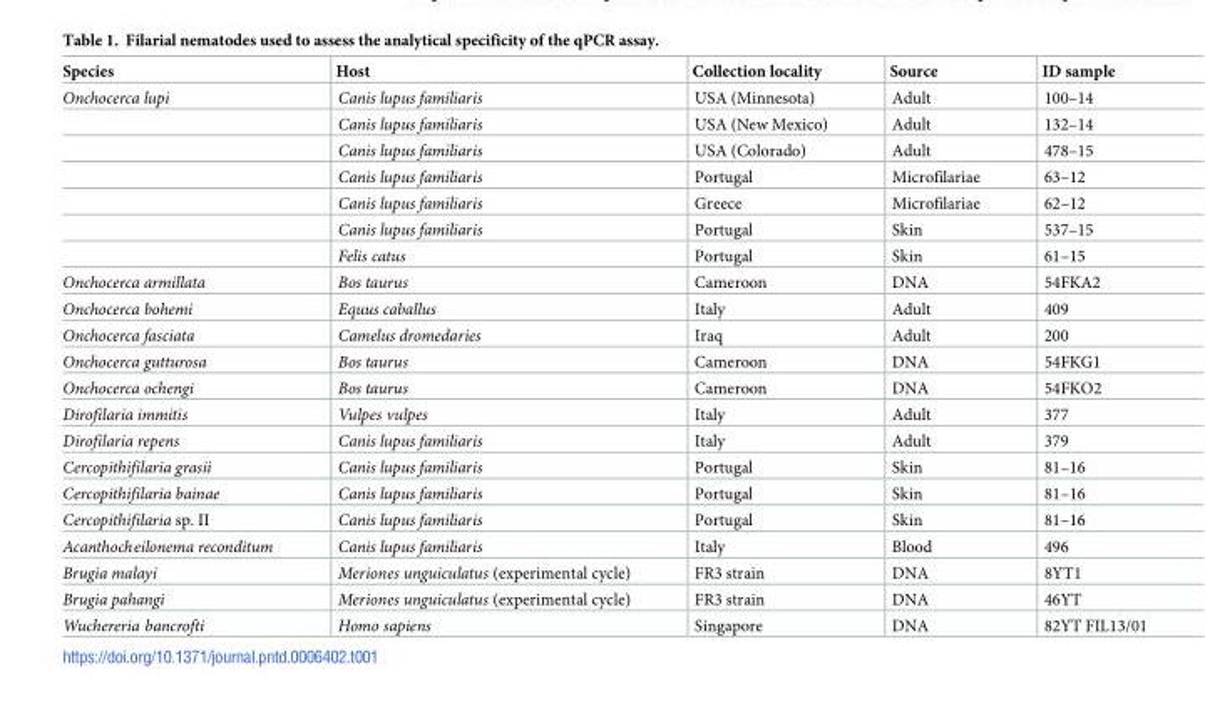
<table><thead><tr><td>Species</td><td>Host</td><td>Collection locality</td><td>Source</td><td>ID sample</td></tr></thead><tbody><tr><td rowspan="7">Onchocerca lupi</td><td>Canis lupus familiaris</td><td>USA (Minnesota)</td><td>Adult</td><td>100–14</td></tr><tr><td>Canis lupus familiaris</td><td>USA (New Mexico)</td><td>Adult</td><td>132–14</td></tr><tr><td>Canis lupus familiaris</td><td>USA (Colorado)</td><td>Adult</td><td>478–15</td></tr><tr><td>Canis lupus familiaris</td><td>Portugal</td><td>Microfilariae</td><td>63–12</td></tr><tr><td>Canis lupus familiaris</td><td>Greece</td><td>Microfilariae</td><td>62–12</td></tr><tr><td>Canis lupus familiaris</td><td>Portugal</td><td>Skin</td><td>537–15</td></tr><tr><td>Felis catus</td><td>Portugal</td><td>Skin</td><td>61–15</td></tr><tr><td>Onchocerca armillata</td><td>Bos taurus</td><td>Cameroon</td><td>DNA</td><td>54FKA2</td></tr><tr><td>Onchocerca bohemi</td><td>Equus caballus</td><td>Italy</td><td>Adult</td><td>409</td></tr><tr><td>Onchocerca fasciata</td><td>Camelus dromedaries</td><td>Iraq</td><td>Adult</td><td>200</td></tr><tr><td>Onchocerca gutturosa</td><td>Bos taurus</td><td>Cameroon</td><td>DNA</td><td>54FKG1</td></tr><tr><td>Onchocerca ochengi</td><td>Bos taurus</td><td>Cameroon</td><td>DNA</td><td>54FKO2</td></tr><tr><td>Dirofilaria immitis</td><td>Vulpes vulpes</td><td>Italy</td><td>Adult</td><td>377</td></tr><tr><td>Dirofilaria repens</td><td>Canis lupus familiaris</td><td>Italy</td><td>Adult</td><td>379</td></tr><tr><td>Cercopithifilaria grasii</td><td>Canis lupus familiaris</td><td>Portugal</td><td>Skin</td><td>81–16</td></tr><tr><td>Cercopithifilaria bainae</td><td>Canis lupus familiaris</td><td>Portugal</td><td>Skin</td><td>81–16</td></tr><tr><td>Cercopithifilaria sp. II</td><td>Canis lupus familiaris</td><td>Portugal</td><td>Skin</td><td>81–16</td></tr><tr><td>Acanthocheilonema reconditum</td><td>Canis lupus familiaris</td><td>Italy</td><td>Blood</td><td>496</td></tr><tr><td>Brugia malayi</td><td>Meriones unguiculatus (experimental cycle)</td><td>FR3 strain</td><td>DNA</td><td>8YT1</td></tr><tr><td>Brugia pahangi</td><td>Meriones unguiculatus (experimental cycle)</td><td>FR3 strain</td><td>DNA</td><td>46YT</td></tr><tr><td>Wuchereria bancrofti</td><td>Homo sapiens</td><td>Singapore</td><td>DNA</td><td>82YT FIL13/01</td></tr></tbody></table>